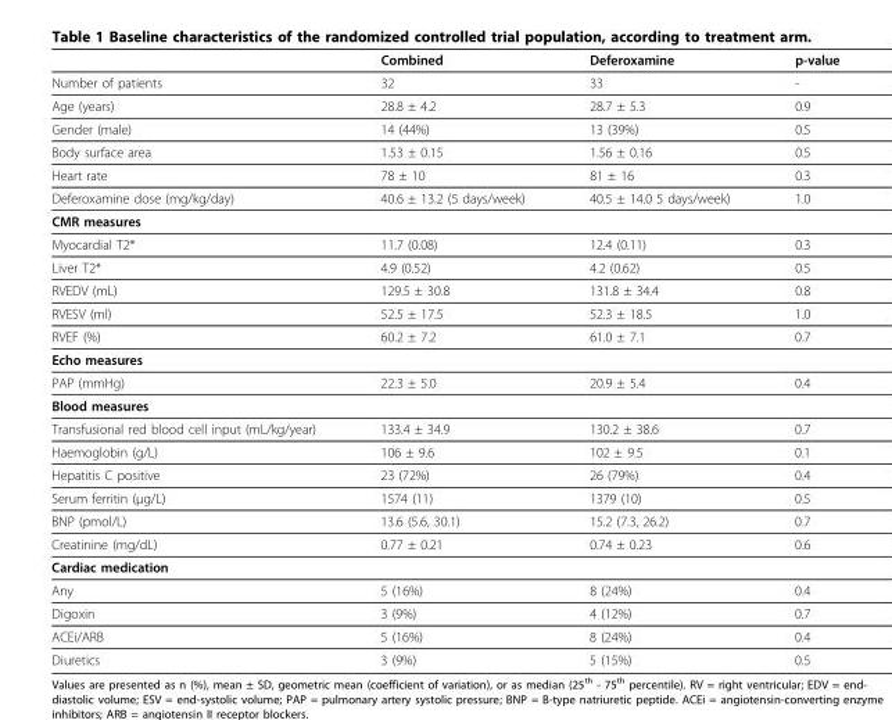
<table><thead><tr><td></td><td>Combined</td><td>Deferoxamine</td><td>p-value</td></tr></thead><tbody><tr><td>Number of patients</td><td>32</td><td>33</td><td>-</td></tr><tr><td>Age (years)</td><td>28.8 ± 4.2</td><td>28.7 ± 5.3</td><td>0.9</td></tr><tr><td>Gender (male)</td><td>14 (44%)</td><td>13 (39%)</td><td>0.5</td></tr><tr><td>Body surface area</td><td>1.53 ± 0.15</td><td>1.56 ± 0.16</td><td>0.5</td></tr><tr><td>Heart rate</td><td>78 ± 10</td><td>81 ± 16</td><td>0.3</td></tr><tr><td>Deferoxamine dose (mg/kg/day)</td><td>40.6 ± 13.2 (5 days/week)</td><td>40.5 ± 14.0 5 days/week)</td><td>1.0</td></tr><tr><td colspan="4">CMR measures</td></tr><tr><td>Myocardial T2*</td><td>11.7 (0.08)</td><td>12.4 (0.11)</td><td>0.3</td></tr><tr><td>Liver T2*</td><td>4.9 (0.52)</td><td>4.2 (0.62)</td><td>0.5</td></tr><tr><td>RVEDV (mL)</td><td>129.5 ± 30.8</td><td>131.8 ± 34.4</td><td>0.8</td></tr><tr><td>RVESV (ml)</td><td>52.5 ± 17.5</td><td>52.3 ± 18.5</td><td>1.0</td></tr><tr><td>RVEF (%)</td><td>60.2 ± 7.2</td><td>61.0 ± 7.1</td><td>0.7</td></tr><tr><td colspan="4">Echo measures</td></tr><tr><td>PAP (mmHg)</td><td>22.3 ± 5.0</td><td>20.9 ± 5.4</td><td>0.4</td></tr><tr><td colspan="4">Blood measures</td></tr><tr><td>Transfusional red blood cell input (mL/kg/year)</td><td>133.4 ± 34.9</td><td>130.2 ± 38.6</td><td>0.7</td></tr><tr><td>Haemoglobin (g/L)</td><td>106 ± 9.6</td><td>102 ± 9.5</td><td>0.1</td></tr><tr><td>Hepatitis C positive</td><td>23 (72%)</td><td>26 (79%)</td><td>0.4</td></tr><tr><td>Serum ferritin (μg/L)</td><td>1574 (11)</td><td>1379 (10)</td><td>0.5</td></tr><tr><td>BNP (pmol/L)</td><td>13.6 (5.6, 30.1)</td><td>15.2 (7.3, 26.2)</td><td>0.7</td></tr><tr><td>Creatinine (mg/dL)</td><td>0.77 ± 0.21</td><td>0.74 ± 0.23</td><td>0.6</td></tr><tr><td colspan="4">Cardiac medication</td></tr><tr><td>Any</td><td>5 (16%)</td><td>8 (24%)</td><td>0.4</td></tr><tr><td>Digoxin</td><td>3 (9%)</td><td>4 (12%)</td><td>0.7</td></tr><tr><td>ACEi/ARB</td><td>5 (16%)</td><td>8 (24%)</td><td>0.4</td></tr><tr><td>Diuretics</td><td>3 (9%)</td><td>5 (15%)</td><td>0.5</td></tr></tbody></table>